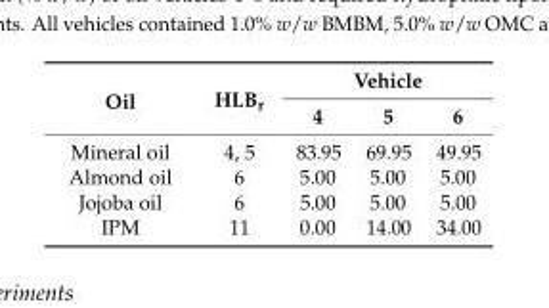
<table><thead><tr><td rowspan="2">Oil</td><td rowspan="2">HLB<sub>r</sub></td><td colspan="3">Vehicle</td></tr><tr><td>4</td><td>5</td><td>6</td></tr></thead><tbody><tr><td>Mineral oil</td><td>4, 5</td><td>83.95</td><td>69.95</td><td>49.95</td></tr><tr><td>Almond oil</td><td>6</td><td>5.00</td><td>5.00</td><td>5.00</td></tr><tr><td>Jojoba oil</td><td>6</td><td>5.00</td><td>5.00</td><td>5.00</td></tr><tr><td>IPM</td><td>11</td><td>0.00</td><td>14.00</td><td>34.00</td></tr></tbody></table>